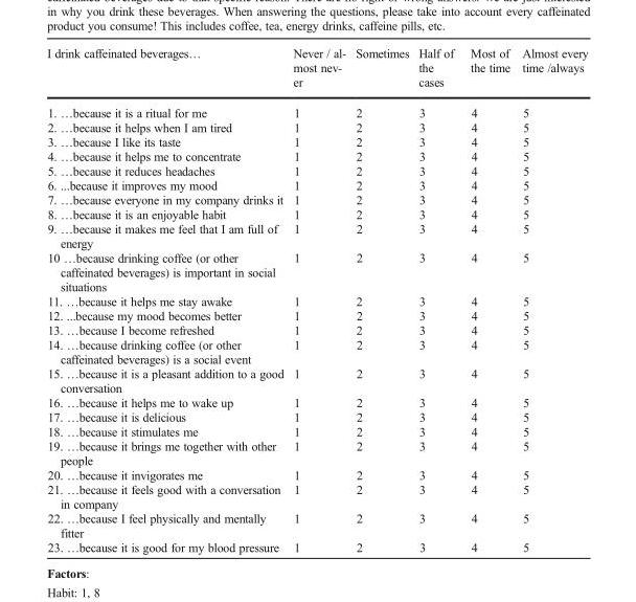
<table><thead><tr><td>I drink caffeinated beverages…</td><td>Never / al- most nev- er</td><td>Sometimes</td><td>Half of the cases</td><td>Most of the time</td><td>Almost every time /always</td></tr></thead><tbody><tr><td>1. …because it is a ritual for me</td><td>1</td><td>2</td><td>3</td><td>4</td><td>5</td></tr><tr><td>2. …because it helps when I am tired</td><td>1</td><td>2</td><td>3</td><td>4</td><td>5</td></tr><tr><td>3. …because I like its taste</td><td>1</td><td>2</td><td>3</td><td>4</td><td>5</td></tr><tr><td>4. …because it helps me to concentrate</td><td>1</td><td>2</td><td>3</td><td>4</td><td>5</td></tr><tr><td>5. …because it reduces headaches</td><td>1</td><td>2</td><td>3</td><td>4</td><td>5</td></tr><tr><td>6. ...because it improves my mood</td><td>1</td><td>2</td><td>3</td><td>4</td><td>5</td></tr><tr><td>7. …because everyone in my company drinks it</td><td>1</td><td>2</td><td>3</td><td>4</td><td>5</td></tr><tr><td>8. …because it is an enjoyable habit</td><td>1</td><td>2</td><td>3</td><td>4</td><td>5</td></tr><tr><td>9. …because it makes me feel that I am full of energy</td><td>1</td><td>2</td><td>3</td><td>4</td><td>5</td></tr><tr><td>10 …because drinking coffee (or other caffeinated beverages) is important in social situations</td><td>1</td><td>2</td><td>3</td><td>4</td><td>5</td></tr><tr><td>11. …because it helps me stay awake</td><td>1</td><td>2</td><td>3</td><td>4</td><td>5</td></tr><tr><td>12. ...because my mood becomes better</td><td>1</td><td>2</td><td>3</td><td>4</td><td>5</td></tr><tr><td>13. …because I become refreshed</td><td>1</td><td>2</td><td>3</td><td>4</td><td>5</td></tr><tr><td>14. …because drinking coffee (or other caffeinated beverages) is a social event</td><td>1</td><td>2</td><td>3</td><td>4</td><td>5</td></tr><tr><td>15. …because it is a pleasant addition to a good conversation</td><td>1</td><td>2</td><td>3</td><td>4</td><td>5</td></tr><tr><td>16. …because it helps me to wake up</td><td>1</td><td>2</td><td>3</td><td>4</td><td>5</td></tr><tr><td>17. …because it is delicious</td><td>1</td><td>2</td><td>3</td><td>4</td><td>5</td></tr><tr><td>18. …because it stimulates me</td><td>1</td><td>2</td><td>3</td><td>4</td><td>5</td></tr><tr><td>19. …because it brings me together with other people</td><td>1</td><td>2</td><td>3</td><td>4</td><td>5</td></tr><tr><td>20. …because it invigorates me</td><td>1</td><td>2</td><td>3</td><td>4</td><td>5</td></tr><tr><td>21. …because it feels good with a conversation in company</td><td>1</td><td>2</td><td>3</td><td>4</td><td>5</td></tr><tr><td>22. …because I feel physically and mentally fitter</td><td>1</td><td>2</td><td>3</td><td>4</td><td>5</td></tr><tr><td>23. …because it is good for my blood pressure</td><td>1</td><td>2</td><td>3</td><td>4</td><td>5</td></tr></tbody></table>